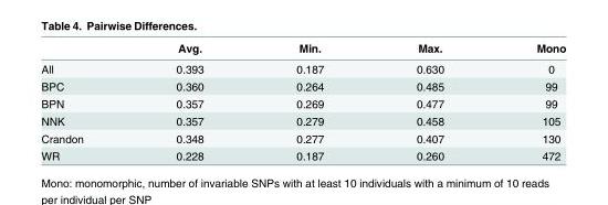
<table><thead><tr><td></td><td>Avg.</td><td>Min.</td><td>Max.</td><td>Mono</td></tr></thead><tbody><tr><td>All</td><td>0.393</td><td>0.187</td><td>0.630</td><td>0</td></tr><tr><td>BPC</td><td>0.360</td><td>0.264</td><td>0.485</td><td>99</td></tr><tr><td>BPN</td><td>0.357</td><td>0.269</td><td>0.477</td><td>99</td></tr><tr><td>NNK</td><td>0.357</td><td>0.279</td><td>0.458</td><td>105</td></tr><tr><td>Crandon</td><td>0.348</td><td>0.277</td><td>0.407</td><td>130</td></tr><tr><td>WR</td><td>0.228</td><td>0.187</td><td>0.260</td><td>472</td></tr></tbody></table>